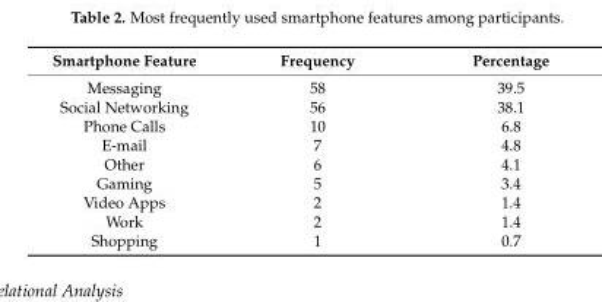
<table><thead><tr><td>Smartphone Feature</td><td>Frequency</td><td>Percentage</td></tr></thead><tbody><tr><td>Messaging</td><td>58</td><td>39.5</td></tr><tr><td>Social Networking</td><td>56</td><td>38.1</td></tr><tr><td>Phone Calls</td><td>10</td><td>6.8</td></tr><tr><td>E-mail</td><td>7</td><td>4.8</td></tr><tr><td>Other</td><td>6</td><td>4.1</td></tr><tr><td>Gaming</td><td>5</td><td>3.4</td></tr><tr><td>Video Apps</td><td>2</td><td>1.4</td></tr><tr><td>Work</td><td>2</td><td>1.4</td></tr><tr><td>Shopping</td><td>1</td><td>0.7</td></tr></tbody></table>